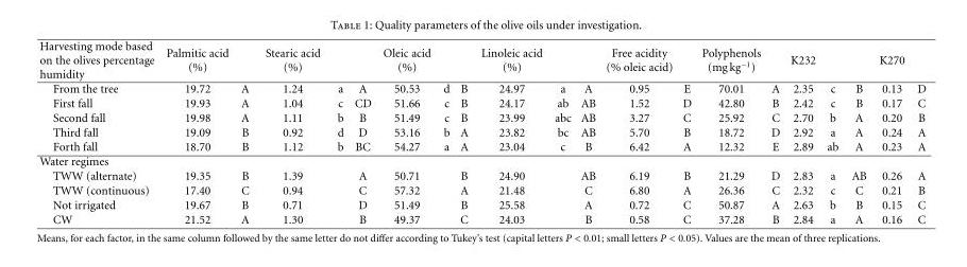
<table><thead><tr><td>Harvesting mode based on the olives percentage humidity</td><td>Palmitic acid (%)</td><td></td><td>Stearic acid (%)</td><td></td><td></td><td>Oleic acid (%)</td><td></td><td></td><td>Linoleic acid (%)</td><td></td><td></td><td>Free acidity (% oleic acid)</td><td></td><td>Polyphenols (mg kg<sup>−1</sup>)</td><td></td><td>K232</td><td></td><td></td><td>K270</td><td></td></tr></thead><tbody><tr><td>From the tree</td><td>19.72</td><td>A</td><td>1.24</td><td>a</td><td>A</td><td>50.53</td><td>d</td><td>B</td><td>24.97</td><td>a</td><td>A</td><td>0.95</td><td>E</td><td>70.01</td><td>A</td><td>2.35</td><td>c</td><td>B</td><td>0.13</td><td>D</td></tr><tr><td>First fall</td><td>19.93</td><td>A</td><td>1.04</td><td>c</td><td>CD</td><td>51.66</td><td>c</td><td>B</td><td>24.17</td><td>ab</td><td>AB</td><td>1.52</td><td>D</td><td>42.80</td><td>B</td><td>2.42</td><td>c</td><td>B</td><td>0.17</td><td>C</td></tr><tr><td>Second fall</td><td>19.98</td><td>A</td><td>1.11</td><td>b</td><td>B</td><td>51.49</td><td>c</td><td>B</td><td>23.99</td><td>abc</td><td>AB</td><td>3.27</td><td>C</td><td>25.92</td><td>C</td><td>2.70</td><td>b</td><td>A</td><td>0.20</td><td>B</td></tr><tr><td>Third fall</td><td>19.09</td><td>B</td><td>0.92</td><td>d</td><td>D</td><td>53.16</td><td>b</td><td>A</td><td>23.82</td><td>bc</td><td>AB</td><td>5.70</td><td>B</td><td>18.72</td><td>D</td><td>2.92</td><td>a</td><td>A</td><td>0.24</td><td>A</td></tr><tr><td>Forth fall</td><td>18.70</td><td>B</td><td>1.12</td><td>b</td><td>BC</td><td>54.27</td><td>a</td><td>A</td><td>23.04</td><td>c</td><td>B</td><td>6.42</td><td>A</td><td>12.32</td><td>E</td><td>2.89</td><td>ab</td><td>A</td><td>0.23</td><td>A</td></tr><tr><td colspan="21">Water regimes</td></tr><tr><td>TWW (alternate)</td><td>19.35</td><td>B</td><td>1.39</td><td></td><td>A</td><td>50.71</td><td></td><td>B</td><td>24.90</td><td></td><td>AB</td><td>6.19</td><td>B</td><td>21.29</td><td>D</td><td>2.83</td><td>a</td><td>AB</td><td>0.26</td><td>A</td></tr><tr><td>TWW (continuous)</td><td>17.40</td><td>C</td><td>0.94</td><td></td><td>C</td><td>57.32</td><td></td><td>A</td><td>21.48</td><td></td><td>C</td><td>6.80</td><td>A</td><td>26.36</td><td>C</td><td>2.32</td><td>c</td><td>C</td><td>0.21</td><td>B</td></tr><tr><td>Not irrigated</td><td>19.67</td><td>B</td><td>0.71</td><td></td><td>D</td><td>51.49</td><td></td><td>B</td><td>25.58</td><td></td><td>A</td><td>0.72</td><td>C</td><td>50.87</td><td>A</td><td>2.63</td><td>b</td><td>B</td><td>0.15</td><td>C</td></tr><tr><td>CW</td><td>21.52</td><td>A</td><td>1.30</td><td></td><td>B</td><td>49.37</td><td></td><td>C</td><td>24.03</td><td></td><td>B</td><td>0.58</td><td>C</td><td>37.28</td><td>B</td><td>2.84</td><td>a</td><td>A</td><td>0.16</td><td>C</td></tr></tbody></table>